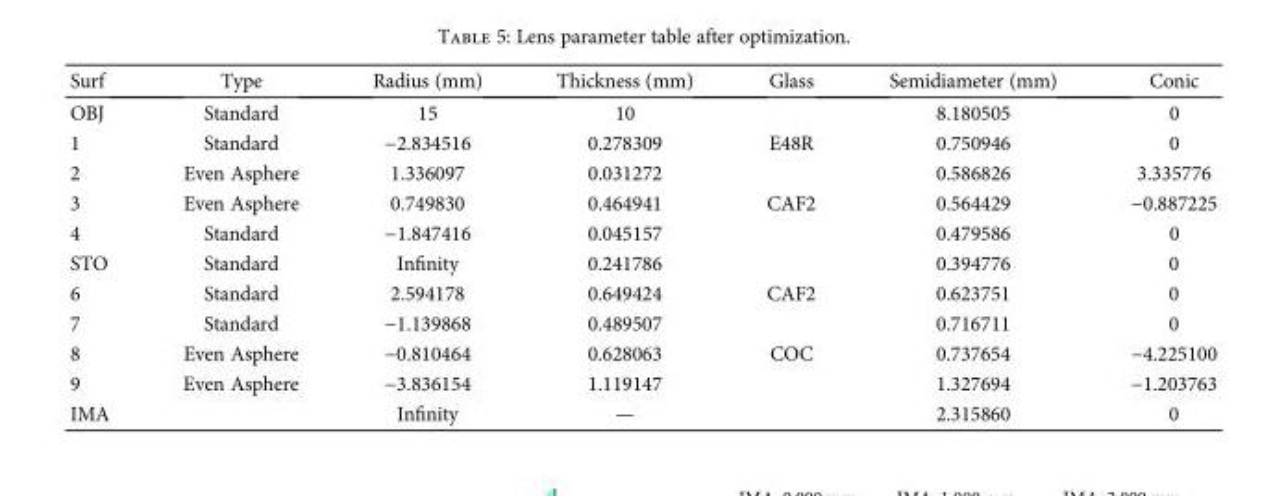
<table><thead><tr><td>Surf</td><td>Type</td><td>Radius (mm)</td><td>Thickness (mm)</td><td>Glass</td><td>Semidiameter (mm)</td><td>Conic</td></tr></thead><tbody><tr><td>OBJ</td><td>Standard</td><td>15</td><td>10</td><td></td><td>8.180505</td><td>0</td></tr><tr><td>1</td><td>Standard</td><td>−2.834516</td><td>0.278309</td><td>E48R</td><td>0.750946</td><td>0</td></tr><tr><td>2</td><td>Even Asphere</td><td>1.336097</td><td>0.031272</td><td></td><td>0.586826</td><td>3.335776</td></tr><tr><td>3</td><td>Even Asphere</td><td>0.749830</td><td>0.464941</td><td>CAF2</td><td>0.564429</td><td>−0.887225</td></tr><tr><td>4</td><td>Standard</td><td>−1.847416</td><td>0.045157</td><td></td><td>0.479586</td><td>0</td></tr><tr><td>STO</td><td>Standard</td><td>Infinity</td><td>0.241786</td><td></td><td>0.394776</td><td>0</td></tr><tr><td>6</td><td>Standard</td><td>2.594178</td><td>0.649424</td><td>CAF2</td><td>0.623751</td><td>0</td></tr><tr><td>7</td><td>Standard</td><td>−1.139868</td><td>0.489507</td><td></td><td>0.716711</td><td>0</td></tr><tr><td>8</td><td>Even Asphere</td><td>−0.810464</td><td>0.628063</td><td>COC</td><td>0.737654</td><td>−4.225100</td></tr><tr><td>9</td><td>Even Asphere</td><td>−3.836154</td><td>1.119147</td><td></td><td>1.327694</td><td>−1.203763</td></tr><tr><td>IMA</td><td></td><td>Infinity</td><td>—</td><td></td><td>2.315860</td><td>0</td></tr></tbody></table>